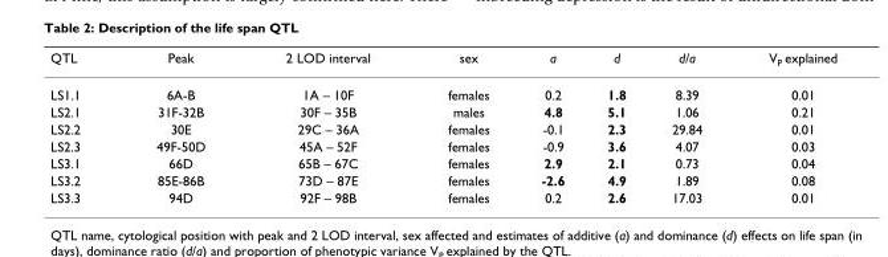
<table><thead><tr><td>QTL</td><td>Peak</td><td>2 LOD interval</td><td>sex</td><td>a</td><td>d</td><td>d/a</td><td>V<sub>P</sub> explained</td></tr></thead><tbody><tr><td>LS1.1</td><td>6A-B</td><td>1A – 10F</td><td>females</td><td>0.2</td><td>1.8</td><td>8.39</td><td>0.01</td></tr><tr><td>LS2.1</td><td>31F-32B</td><td>30F – 35B</td><td>males</td><td>4.8</td><td>5.1</td><td>1.06</td><td>0.21</td></tr><tr><td>LS2.2</td><td>30E</td><td>29C – 36A</td><td>females</td><td>-0.1</td><td>2.3</td><td>29.84</td><td>0.01</td></tr><tr><td>LS2.3</td><td>49F-50D</td><td>45A – 52F</td><td>females</td><td>-0.9</td><td>3.6</td><td>4.07</td><td>0.03</td></tr><tr><td>LS3.1</td><td>66D</td><td>65B – 67C</td><td>females</td><td>2.9</td><td>2.1</td><td>0.73</td><td>0.04</td></tr><tr><td>LS3.2</td><td>85E-86B</td><td>73D – 87E</td><td>females</td><td>-2.6</td><td>4.9</td><td>1.89</td><td>0.08</td></tr><tr><td>LS3.3</td><td>94D</td><td>92F – 98B</td><td>females</td><td>0.2</td><td>2.6</td><td>17.03</td><td>0.01</td></tr></tbody></table>